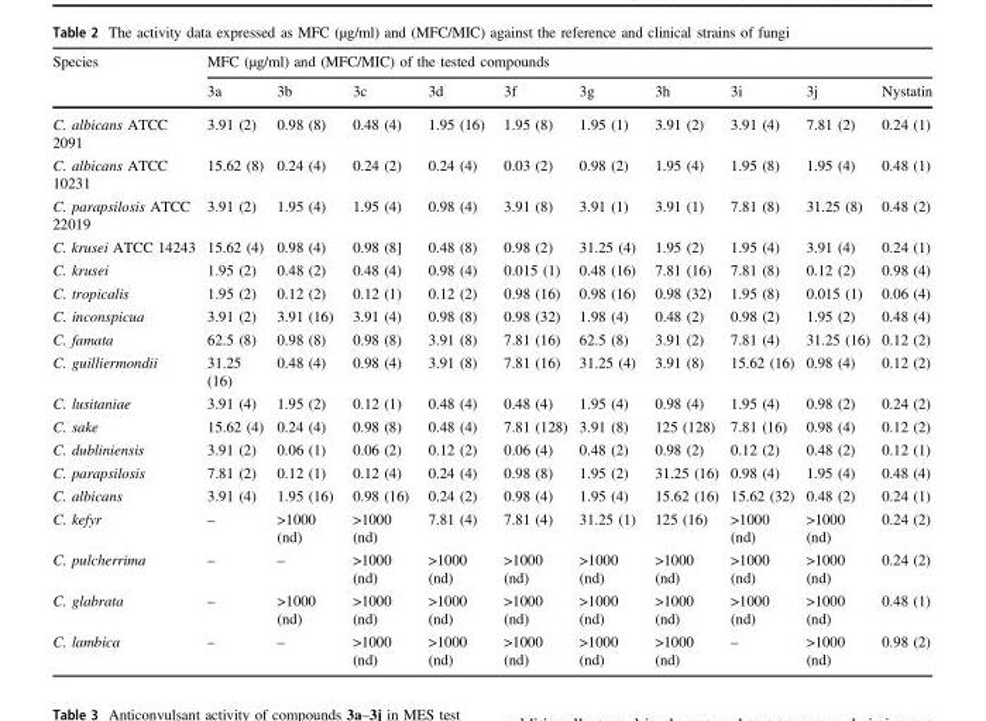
<table><thead><tr><td rowspan="2">Species</td><td colspan="10">MFC (µg/ml) and (MFC/MIC) of the tested compounds</td></tr><tr><td>3a</td><td>3b</td><td>3c</td><td>3d</td><td>3f</td><td>3g</td><td>3h</td><td>3i</td><td>3j</td><td>Nystatin</td></tr></thead><tbody><tr><td>C. albicans ATCC 2091</td><td>3.91 (2)</td><td>0.98 (8)</td><td>0.48 (4)</td><td>1.95 (16)</td><td>1.95 (8)</td><td>1.95 (1)</td><td>3.91 (2)</td><td>3.91 (4)</td><td>7.81 (2)</td><td>0.24 (1)</td></tr><tr><td>C. albicans ATCC 10231</td><td>15.62 (8)</td><td>0.24 (4)</td><td>0.24 (2)</td><td>0.24 (4)</td><td>0.03 (2)</td><td>0.98 (2)</td><td>1.95 (4)</td><td>1.95 (8)</td><td>1.95 (4)</td><td>0.48 (1)</td></tr><tr><td>C. parapsilosis ATCC 22019</td><td>3.91 (2)</td><td>1.95 (4)</td><td>1.95 (4)</td><td>0.98 (4)</td><td>3.91 (8)</td><td>3.91 (1)</td><td>3.91 (1)</td><td>7.81 (8)</td><td>31.25 (8)</td><td>0.48 (2)</td></tr><tr><td>C. krusei ATCC 14243</td><td>15.62 (4)</td><td>0.98 (4)</td><td>0.98 (8]</td><td>0.48 (8)</td><td>0.98 (2)</td><td>31.25 (4)</td><td>1.95 (2)</td><td>1.95 (4)</td><td>3.91 (4)</td><td>0.24 (1)</td></tr><tr><td>C. krusei</td><td>1.95 (2)</td><td>0.48 (2)</td><td>0.48 (4)</td><td>0.98 (4)</td><td>0.015 (1)</td><td>0.48 (16)</td><td>7.81 (16)</td><td>7.81 (8)</td><td>0.12 (2)</td><td>0.98 (4)</td></tr><tr><td>C. tropicalis</td><td>1.95 (2)</td><td>0.12 (2)</td><td>0.12 (1)</td><td>0.12 (2)</td><td>0.98 (16)</td><td>0.98 (16)</td><td>0.98 (32)</td><td>1.95 (8)</td><td>0.015 (1)</td><td>0.06 (4)</td></tr><tr><td>C. inconspicua</td><td>3.91 (2)</td><td>3.91 (16)</td><td>3.91 (4)</td><td>0.98 (8)</td><td>0.98 (32)</td><td>1.98 (4)</td><td>0.48 (2)</td><td>0.98 (2)</td><td>1.95 (2)</td><td>0.48 (4)</td></tr><tr><td>C. famata</td><td>62.5 (8)</td><td>0.98 (8)</td><td>0.98 (8)</td><td>3.91 (8)</td><td>7.81 (16)</td><td>62.5 (8)</td><td>3.91 (2)</td><td>7.81 (4)</td><td>31.25 (16)</td><td>0.12 (2)</td></tr><tr><td>C. guilliermondii</td><td>31.25 (16)</td><td>0.48 (4)</td><td>0.98 (4)</td><td>3.91 (8)</td><td>7.81 (16)</td><td>31.25 (4)</td><td>3.91 (8)</td><td>15.62 (16)</td><td>0.98 (4)</td><td>0.12 (2)</td></tr><tr><td>C. lusitaniae</td><td>3.91 (4)</td><td>1.95 (2)</td><td>0.12 (1)</td><td>0.48 (4)</td><td>0.48 (4)</td><td>1.95 (4)</td><td>0.98 (4)</td><td>1.95 (4)</td><td>0.98 (2)</td><td>0.24 (2)</td></tr><tr><td>C. sake</td><td>15.62 (4)</td><td>0.24 (4)</td><td>0.98 (8)</td><td>0.48 (4)</td><td>7.81 (128)</td><td>3.91 (8)</td><td>125 (128)</td><td>7.81 (16)</td><td>0.98 (4)</td><td>0.12 (2)</td></tr><tr><td>C. dubliniensis</td><td>3.91 (2)</td><td>0.06 (1)</td><td>0.06 (2)</td><td>0.12 (2)</td><td>0.06 (4)</td><td>0.48 (2)</td><td>0.98 (2)</td><td>0.12 (2)</td><td>0.48 (2)</td><td>0.12 (1)</td></tr><tr><td>C. parapsilosis</td><td>7.81 (2)</td><td>0.12 (1)</td><td>0.12 (4)</td><td>0.24 (4)</td><td>0.98 (8)</td><td>1.95 (2)</td><td>31.25 (16)</td><td>0.98 (4)</td><td>1.95 (4)</td><td>0.48 (4)</td></tr><tr><td>C. albicans</td><td>3.91 (4)</td><td>1.95 (16)</td><td>0.98 (16)</td><td>0.24 (2)</td><td>0.98 (4)</td><td>1.95 (4)</td><td>15.62 (16)</td><td>15.62 (32)</td><td>0.48 (2)</td><td>0.24 (1)</td></tr><tr><td>C. kefyr</td><td>–</td><td>&gt;1000 (nd)</td><td>&gt;1000 (nd)</td><td>7.81 (4)</td><td>7.81 (4)</td><td>31.25 (1)</td><td>125 (16)</td><td>&gt;1000 (nd)</td><td>&gt;1000 (nd)</td><td>0.24 (2)</td></tr><tr><td>C. pulcherrima</td><td>–</td><td>–</td><td>&gt;1000 (nd)</td><td>&gt;1000 (nd)</td><td>&gt;1000 (nd)</td><td>&gt;1000 (nd)</td><td>&gt;1000 (nd)</td><td>&gt;1000 (nd)</td><td>&gt;1000 (nd)</td><td>0.24 (2)</td></tr><tr><td>C. glabrata</td><td>–</td><td>&gt;1000 (nd)</td><td>&gt;1000 (nd)</td><td>&gt;1000 (nd)</td><td>&gt;1000 (nd)</td><td>&gt;1000 (nd)</td><td>&gt;1000 (nd)</td><td>&gt;1000 (nd)</td><td>&gt;1000 (nd)</td><td>0.48 (1)</td></tr><tr><td>C. lambica</td><td>–</td><td>–</td><td>&gt;1000 (nd)</td><td>&gt;1000 (nd)</td><td>&gt;1000 (nd)</td><td>&gt;1000 (nd)</td><td>&gt;1000 (nd)</td><td>–</td><td>&gt;1000 (nd)</td><td>0.98 (2)</td></tr></tbody></table>